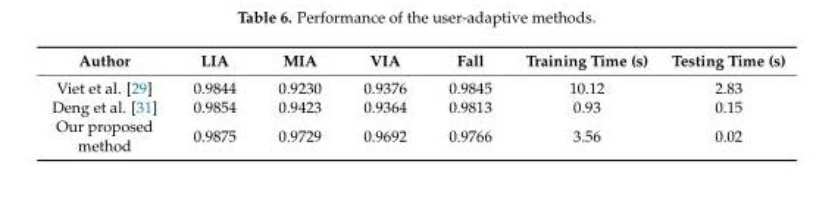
<table><thead><tr><td>Author</td><td>LIA</td><td>MIA</td><td>VIA</td><td>Fall</td><td>Training Time (s)</td><td>Testing Time (s)</td></tr></thead><tbody><tr><td>Viet et al. [29]</td><td>0.9844</td><td>0.9230</td><td>0.9376</td><td>0.9845</td><td>10.12</td><td>2.83</td></tr><tr><td>Deng et al. [31]</td><td>0.9854</td><td>0.9423</td><td>0.9364</td><td>0.9813</td><td>0.93</td><td>0.15</td></tr><tr><td>Our proposed method</td><td>0.9875</td><td>0.9729</td><td>0.9692</td><td>0.9766</td><td>3.56</td><td>0.02</td></tr></tbody></table>